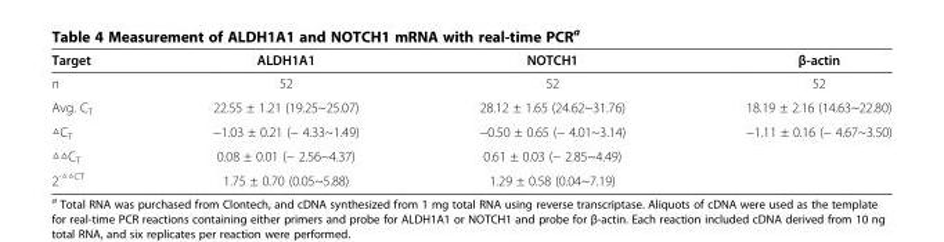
<table><thead><tr><td>Target</td><td>ALDH1A1</td><td>NOTCH1</td><td>β-actin</td></tr></thead><tbody><tr><td>n</td><td>52</td><td>52</td><td>52</td></tr><tr><td>Avg. C<sub>T</sub></td><td>22.55 ± 1.21 (19.25~25.07)</td><td>28.12 ± 1.65 (24.62~31.76)</td><td>18.19 ± 2.16 (14.63~22.80)</td></tr><tr><td>△C<sub>T</sub></td><td>−1.03 ± 0.21 (− 4.33~1.49)</td><td>−0.50 ± 0.65 (− 4.01~3.14)</td><td>−1.11 ± 0.16 (− 4.67~3.50)</td></tr><tr><td>△△C<sub>T</sub></td><td>0.08 ± 0.01 (− 2.56~4.37)</td><td>0.61 ± 0.03 (− 2.85~4.49)</td><td></td></tr><tr><td>2<sup>-△△CT</sup></td><td>1.75 ± 0.70 (0.05~5.88)</td><td>1.29 ± 0.58 (0.04~7.19)</td><td></td></tr></tbody></table>